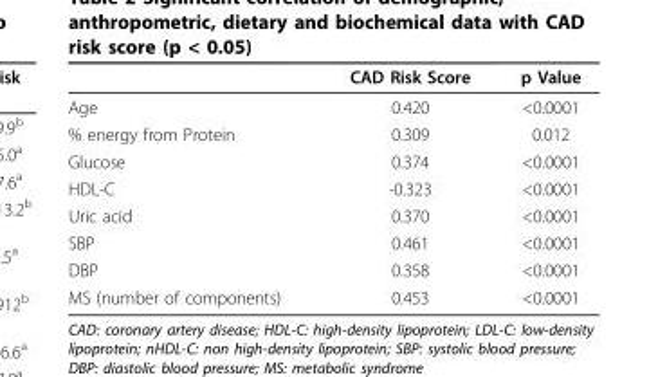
<table><thead><tr><td></td><td>CAD Risk Score</td><td>p Value</td></tr></thead><tbody><tr><td>Age</td><td>0.420</td><td>&lt;0.0001</td></tr><tr><td>% energy from Protein</td><td>0.309</td><td>0.012</td></tr><tr><td>Glucose</td><td>0.374</td><td>&lt;0.0001</td></tr><tr><td>HDL-C</td><td>-0.323</td><td>&lt;0.0001</td></tr><tr><td>Uric acid</td><td>0.370</td><td>&lt;0.0001</td></tr><tr><td>SBP</td><td>0.461</td><td>&lt;0.0001</td></tr><tr><td>DBP</td><td>0.358</td><td>&lt;0.0001</td></tr><tr><td>MS (number of components)</td><td>0.453</td><td>&lt;0.0001</td></tr></tbody></table>